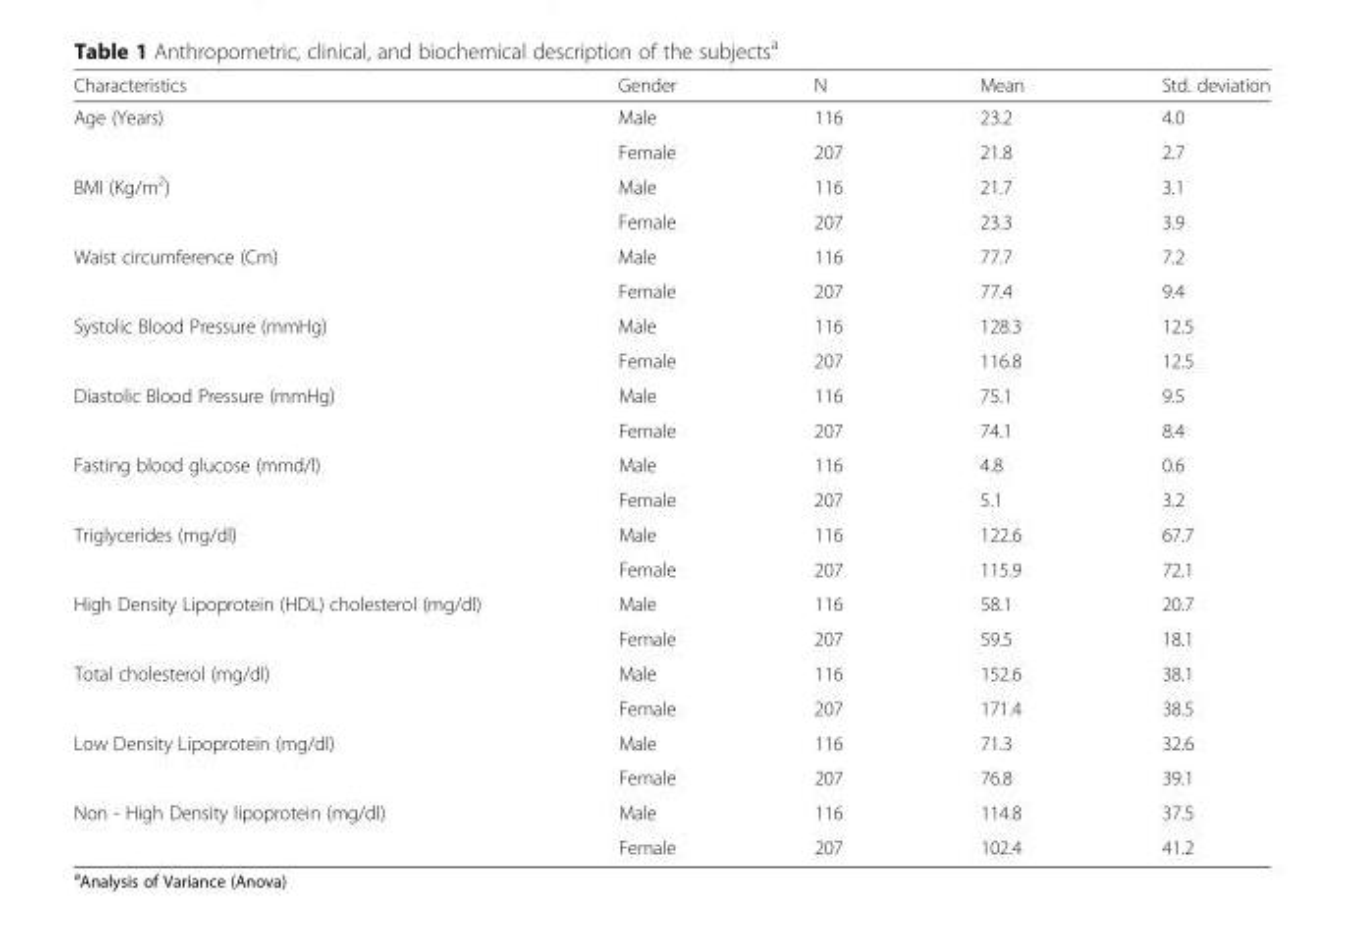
<table><thead><tr><td>Characteristics</td><td>Gender</td><td>N</td><td>Mean</td><td>Std. deviation</td></tr></thead><tbody><tr><td rowspan="2">Age (Years)</td><td>Male</td><td>116</td><td>23.2</td><td>4.0</td></tr><tr><td>Female</td><td>207</td><td>21.8</td><td>2.7</td></tr><tr><td rowspan="2">BMI (Kg/m<sup>2</sup>)</td><td>Male</td><td>116</td><td>21.7</td><td>3.1</td></tr><tr><td>Female</td><td>207</td><td>23.3</td><td>3.9</td></tr><tr><td rowspan="2">Waist circumference (Cm)</td><td>Male</td><td>116</td><td>77.7</td><td>7.2</td></tr><tr><td>Female</td><td>207</td><td>77.4</td><td>9.4</td></tr><tr><td rowspan="2">Systolic Blood Pressure (mmHg)</td><td>Male</td><td>116</td><td>128.3</td><td>12.5</td></tr><tr><td>Female</td><td>207</td><td>116.8</td><td>12.5</td></tr><tr><td rowspan="2">Diastolic Blood Pressure (mmHg)</td><td>Male</td><td>116</td><td>75.1</td><td>9.5</td></tr><tr><td>Female</td><td>207</td><td>74.1</td><td>8.4</td></tr><tr><td rowspan="2">Fasting blood glucose (mmd/l)</td><td>Male</td><td>116</td><td>4.8</td><td>0.6</td></tr><tr><td>Female</td><td>207</td><td>5.1</td><td>3.2</td></tr><tr><td rowspan="2">Triglycerides (mg/dl)</td><td>Male</td><td>116</td><td>122.6</td><td>67.7</td></tr><tr><td>Female</td><td>207</td><td>115.9</td><td>72.1</td></tr><tr><td rowspan="2">High Density Lipoprotein (HDL) cholesterol (mg/dl)</td><td>Male</td><td>116</td><td>58.1</td><td>20.7</td></tr><tr><td>Female</td><td>207</td><td>59.5</td><td>18.1</td></tr><tr><td rowspan="2">Total cholesterol (mg/dl)</td><td>Male</td><td>116</td><td>152.6</td><td>38.1</td></tr><tr><td>Female</td><td>207</td><td>171.4</td><td>38.5</td></tr><tr><td rowspan="2">Low Density Lipoprotein (mg/dl)</td><td>Male</td><td>116</td><td>71.3</td><td>32.6</td></tr><tr><td>Female</td><td>207</td><td>76.8</td><td>39.1</td></tr><tr><td rowspan="2">Non - High Density lipoprotein (mg/dl)</td><td>Male</td><td>116</td><td>114.8</td><td>37.5</td></tr><tr><td>Female</td><td>207</td><td>102.4</td><td>41.2</td></tr></tbody></table>